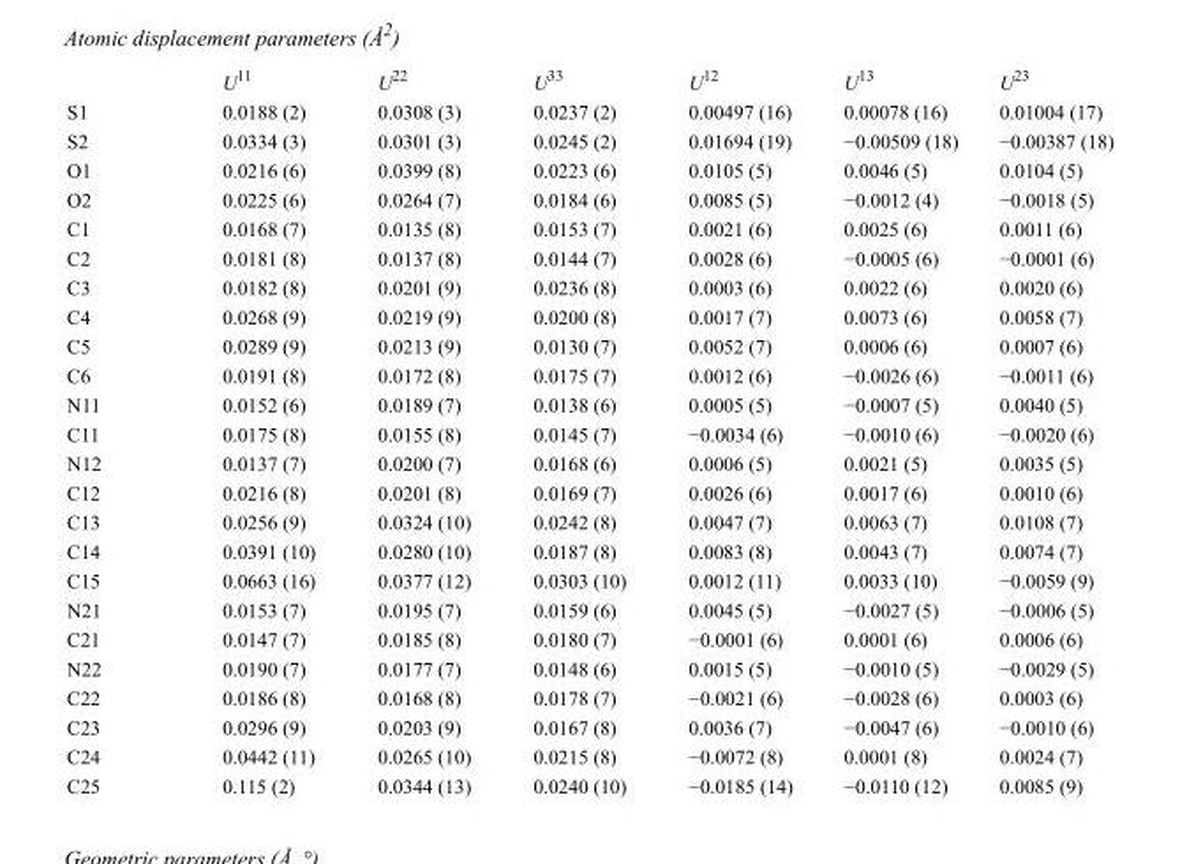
<table><thead><tr><td></td><td>U<sup>11</sup></td><td>U<sup>22</sup></td><td>U<sup>33</sup></td><td>U<sup>12</sup></td><td>U<sup>13</sup></td><td>U<sup>23</sup></td></tr></thead><tbody><tr><td>S1</td><td>0.0188 (2)</td><td>0.0308 (3)</td><td>0.0237 (2)</td><td>0.00497 (16)</td><td>0.00078 (16)</td><td>0.01004 (17)</td></tr><tr><td>S2</td><td>0.0334 (3)</td><td>0.0301 (3)</td><td>0.0245 (2)</td><td>0.01694 (19)</td><td>−0.00509 (18)</td><td>−0.00387 (18)</td></tr><tr><td>O1</td><td>0.0216 (6)</td><td>0.0399 (8)</td><td>0.0223 (6)</td><td>0.0105 (5)</td><td>0.0046 (5)</td><td>0.0104 (5)</td></tr><tr><td>O2</td><td>0.0225 (6)</td><td>0.0264 (7)</td><td>0.0184 (6)</td><td>0.0085 (5)</td><td>−0.0012 (4)</td><td>−0.0018 (5)</td></tr><tr><td>C1</td><td>0.0168 (7)</td><td>0.0135 (8)</td><td>0.0153 (7)</td><td>0.0021 (6)</td><td>0.0025 (6)</td><td>0.0011 (6)</td></tr><tr><td>C2</td><td>0.0181 (8)</td><td>0.0137 (8)</td><td>0.0144 (7)</td><td>0.0028 (6)</td><td>−0.0005 (6)</td><td>−0.0001 (6)</td></tr><tr><td>C3</td><td>0.0182 (8)</td><td>0.0201 (9)</td><td>0.0236 (8)</td><td>0.0003 (6)</td><td>0.0022 (6)</td><td>0.0020 (6)</td></tr><tr><td>C4</td><td>0.0268 (9)</td><td>0.0219 (9)</td><td>0.0200 (8)</td><td>0.0017 (7)</td><td>0.0073 (6)</td><td>0.0058 (7)</td></tr><tr><td>C5</td><td>0.0289 (9)</td><td>0.0213 (9)</td><td>0.0130 (7)</td><td>0.0052 (7)</td><td>0.0006 (6)</td><td>0.0007 (6)</td></tr><tr><td>C6</td><td>0.0191 (8)</td><td>0.0172 (8)</td><td>0.0175 (7)</td><td>0.0012 (6)</td><td>−0.0026 (6)</td><td>−0.0011 (6)</td></tr><tr><td>N11</td><td>0.0152 (6)</td><td>0.0189 (7)</td><td>0.0138 (6)</td><td>0.0005 (5)</td><td>−0.0007 (5)</td><td>0.0040 (5)</td></tr><tr><td>C11</td><td>0.0175 (8)</td><td>0.0155 (8)</td><td>0.0145 (7)</td><td>−0.0034 (6)</td><td>−0.0010 (6)</td><td>−0.0020 (6)</td></tr><tr><td>N12</td><td>0.0137 (7)</td><td>0.0200 (7)</td><td>0.0168 (6)</td><td>0.0006 (5)</td><td>0.0021 (5)</td><td>0.0035 (5)</td></tr><tr><td>C12</td><td>0.0216 (8)</td><td>0.0201 (8)</td><td>0.0169 (7)</td><td>0.0026 (6)</td><td>0.0017 (6)</td><td>0.0010 (6)</td></tr><tr><td>C13</td><td>0.0256 (9)</td><td>0.0324 (10)</td><td>0.0242 (8)</td><td>0.0047 (7)</td><td>0.0063 (7)</td><td>0.0108 (7)</td></tr><tr><td>C14</td><td>0.0391 (10)</td><td>0.0280 (10)</td><td>0.0187 (8)</td><td>0.0083 (8)</td><td>0.0043 (7)</td><td>0.0074 (7)</td></tr><tr><td>C15</td><td>0.0663 (16)</td><td>0.0377 (12)</td><td>0.0303 (10)</td><td>0.0012 (11)</td><td>0.0033 (10)</td><td>−0.0059 (9)</td></tr><tr><td>N21</td><td>0.0153 (7)</td><td>0.0195 (7)</td><td>0.0159 (6)</td><td>0.0045 (5)</td><td>−0.0027 (5)</td><td>−0.0006 (5)</td></tr><tr><td>C21</td><td>0.0147 (7)</td><td>0.0185 (8)</td><td>0.0180 (7)</td><td>−0.0001 (6)</td><td>0.0001 (6)</td><td>0.0006 (6)</td></tr><tr><td>N22</td><td>0.0190 (7)</td><td>0.0177 (7)</td><td>0.0148 (6)</td><td>0.0015 (5)</td><td>−0.0010 (5)</td><td>−0.0029 (5)</td></tr><tr><td>C22</td><td>0.0186 (8)</td><td>0.0168 (8)</td><td>0.0178 (7)</td><td>−0.0021 (6)</td><td>−0.0028 (6)</td><td>0.0003 (6)</td></tr><tr><td>C23</td><td>0.0296 (9)</td><td>0.0203 (9)</td><td>0.0167 (8)</td><td>0.0036 (7)</td><td>−0.0047 (6)</td><td>−0.0010 (6)</td></tr><tr><td>C24</td><td>0.0442 (11)</td><td>0.0265 (10)</td><td>0.0215 (8)</td><td>−0.0072 (8)</td><td>0.0001 (8)</td><td>0.0024 (7)</td></tr><tr><td>C25</td><td>0.115 (2)</td><td>0.0344 (13)</td><td>0.0240 (10)</td><td>−0.0185 (14)</td><td>−0.0110 (12)</td><td>0.0085 (9)</td></tr></tbody></table>